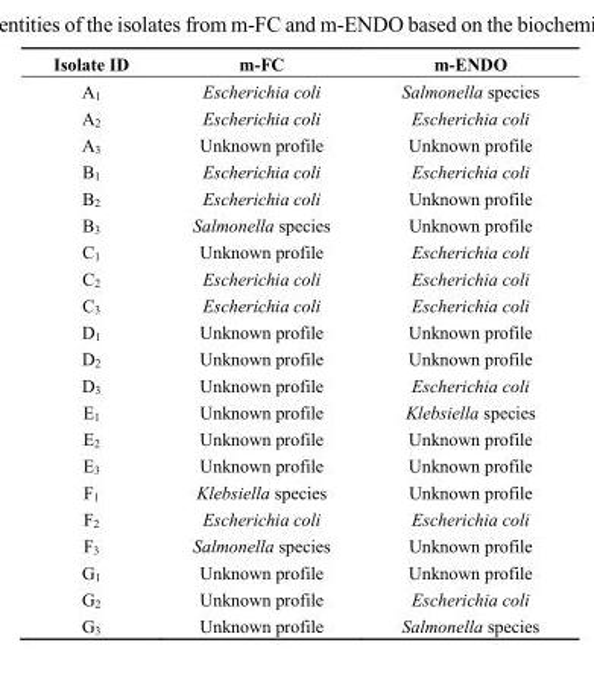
<table><thead><tr><td>Isolate ID</td><td>m-FC</td><td>m-ENDO</td></tr></thead><tbody><tr><td>A<sub>1</sub></td><td>Escherichia coli</td><td>Salmonella species</td></tr><tr><td>A<sub>2</sub></td><td>Escherichia coli</td><td>Escherichia coli</td></tr><tr><td>A<sub>3</sub></td><td>Unknown profile</td><td>Unknown profile</td></tr><tr><td>B<sub>1</sub></td><td>Escherichia coli</td><td>Escherichia coli</td></tr><tr><td>B<sub>2</sub></td><td>Escherichia coli</td><td>Unknown profile</td></tr><tr><td>B<sub>3</sub></td><td>Salmonella species</td><td>Unknown profile</td></tr><tr><td>C<sub>1</sub></td><td>Unknown profile</td><td>Escherichia coli</td></tr><tr><td>C<sub>2</sub></td><td>Escherichia coli</td><td>Escherichia coli</td></tr><tr><td>C<sub>3</sub></td><td>Escherichia coli</td><td>Escherichia coli</td></tr><tr><td>D<sub>1</sub></td><td>Unknown profile</td><td>Unknown profile</td></tr><tr><td>D<sub>2</sub></td><td>Unknown profile</td><td>Unknown profile</td></tr><tr><td>D<sub>3</sub></td><td>Unknown profile</td><td>Escherichia coli</td></tr><tr><td>E<sub>1</sub></td><td>Unknown profile</td><td>Klebsiella species</td></tr><tr><td>E<sub>2</sub></td><td>Unknown profile</td><td>Unknown profile</td></tr><tr><td>E<sub>3</sub></td><td>Unknown profile</td><td>Unknown profile</td></tr><tr><td>F<sub>1</sub></td><td>Klebsiella species</td><td>Unknown profile</td></tr><tr><td>F<sub>2</sub></td><td>Escherichia coli</td><td>Escherichia coli</td></tr><tr><td>F<sub>3</sub></td><td>Salmonella species</td><td>Unknown profile</td></tr><tr><td>G<sub>1</sub></td><td>Unknown profile</td><td>Unknown profile</td></tr><tr><td>G<sub>2</sub></td><td>Unknown profile</td><td>Escherichia coli</td></tr><tr><td>G<sub>3</sub></td><td>Unknown profile</td><td>Salmonella species</td></tr></tbody></table>